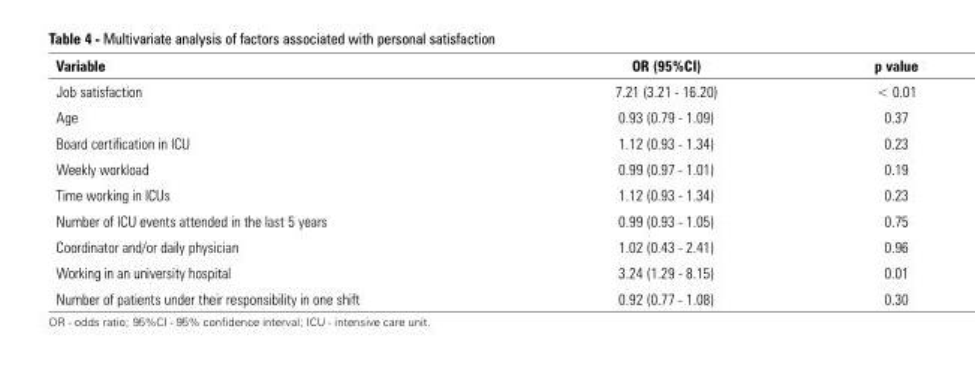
<table><thead><tr><td>Variable</td><td>OR (95%CI)</td><td>p value</td></tr></thead><tbody><tr><td>Job satisfaction</td><td>7.21 (3.21 - 16.20)</td><td>&lt; 0.01</td></tr><tr><td>Age</td><td>0.93 (0.79 - 1.09)</td><td>0.37</td></tr><tr><td>Board certification in ICU</td><td>1.12 (0.93 - 1.34)</td><td>0.23</td></tr><tr><td>Weekly workload</td><td>0.99 (0.97 - 1.01)</td><td>0.19</td></tr><tr><td>Time working in ICUs</td><td>1.12 (0.93 - 1.34)</td><td>0.23</td></tr><tr><td>Number of ICU events attended in the last 5 years</td><td>0.99 (0.93 - 1.05)</td><td>0.75</td></tr><tr><td>Coordinator and/or daily physician</td><td>1.02 (0.43 - 2.41)</td><td>0.96</td></tr><tr><td>Working in an university hospital</td><td>3.24 (1.29 - 8.15)</td><td>0.01</td></tr><tr><td>Number of patients under their responsibility in one shift</td><td>0.92 (0.77 - 1.08)</td><td>0.30</td></tr></tbody></table>